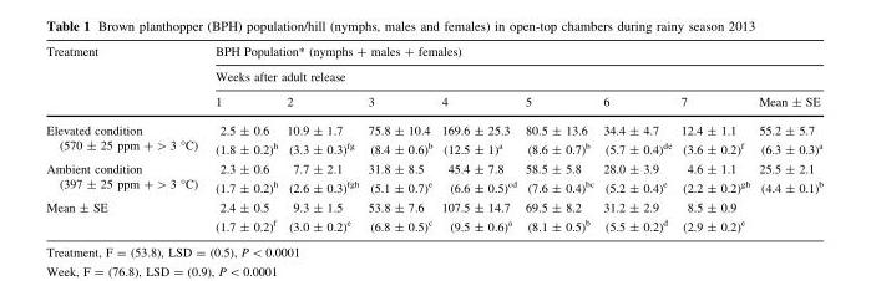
<table><thead><tr><td rowspan="3">Treatment</td><td rowspan="2" colspan="8">BPH Population* (nymphs + males + females) Weeks after adult release</td></tr><tr></tr><tr><td>1</td><td>2</td><td>3</td><td>4</td><td>5</td><td>6</td><td>7</td><td>Mean ± SE</td></tr></thead><tbody><tr><td rowspan="2">Elevated condition (570 ± 25 ppm + &gt; 3 °C)</td><td>2.5 ± 0.6</td><td>10.9 ± 1.7</td><td>75.8 ± 10.4</td><td>169.6 ± 25.3</td><td>80.5 ± 13.6</td><td>34.4 ± 4.7</td><td>12.4 ± 1.1</td><td>55.2 ± 5.7</td></tr><tr><td>(1.8 ± 0.2)<sup>h</sup></td><td>(3.3 ± 0.3)<sup>fg</sup></td><td>(8.4 ± 0.6)<sup>b</sup></td><td>(12.5 ± 1)<sup>a</sup></td><td>(8.6 ± 0.7)<sup>b</sup></td><td>(5.7 ± 0.4)<sup>de</sup></td><td>(3.6 ± 0.2)<sup>f</sup></td><td>(6.3 ± 0.3)<sup>a</sup></td></tr><tr><td rowspan="2">Ambient condition (397 ± 25 ppm + &gt; 3 °C)</td><td>2.3 ± 0.6</td><td>7.7 ± 2.1</td><td>31.8 ± 8.5</td><td>45.4 ± 7.8</td><td>58.5 ± 5.8</td><td>28.0 ± 3.9</td><td>4.6 ± 1.1</td><td>25.5 ± 2.1</td></tr><tr><td>(1.7 ± 0.2)<sup>h</sup></td><td>(2.6 ± 0.3)<sup>fgh</sup></td><td>(5.1 ± 0.7)<sup>e</sup></td><td>(6.6 ± 0.5)<sup>cd</sup></td><td>(7.6 ± 0.4)<sup>bc</sup></td><td>(5.2 ± 0.4)<sup>e</sup></td><td>(2.2 ± 0.2)<sup>gh</sup></td><td>(4.4 ± 0.1)<sup>b</sup></td></tr><tr><td rowspan="2">Mean ± SE</td><td>2.4 ± 0.5</td><td>9.3 ± 1.5</td><td>53.8 ± 7.6</td><td>107.5 ± 14.7</td><td>69.5 ± 8.2</td><td>31.2 ± 2.9</td><td>8.5 ± 0.9</td><td rowspan="2"></td></tr><tr><td>(1.7 ± 0.2)<sup>f</sup></td><td>(3.0 ± 0.2)<sup>e</sup></td><td>(6.8 ± 0.5)<sup>c</sup></td><td>(9.5 ± 0.6)<sup>a</sup></td><td>(8.1 ± 0.5)<sup>b</sup></td><td>(5.5 ± 0.2)<sup>d</sup></td><td>(2.9 ± 0.2)<sup>e</sup></td></tr></tbody></table>